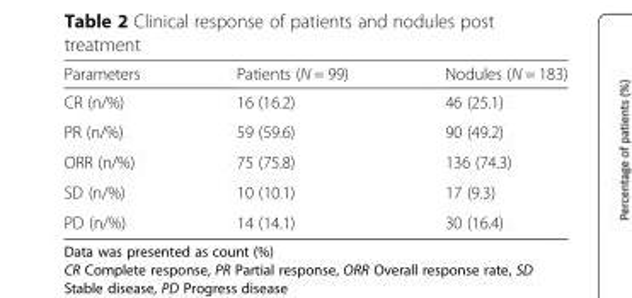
<table><thead><tr><td>Parameters</td><td>Patients (N = 99)</td><td>Nodules (N = 183)</td></tr></thead><tbody><tr><td>CR (n/%)</td><td>16 (16.2)</td><td>46 (25.1)</td></tr><tr><td>PR (n/%)</td><td>59 (59.6)</td><td>90 (49.2)</td></tr><tr><td>ORR (n/%)</td><td>75 (75.8)</td><td>136 (74.3)</td></tr><tr><td>SD (n/%)</td><td>10 (10.1)</td><td>17 (9.3)</td></tr><tr><td>PD (n/%)</td><td>14 (14.1)</td><td>30 (16.4)</td></tr></tbody></table>